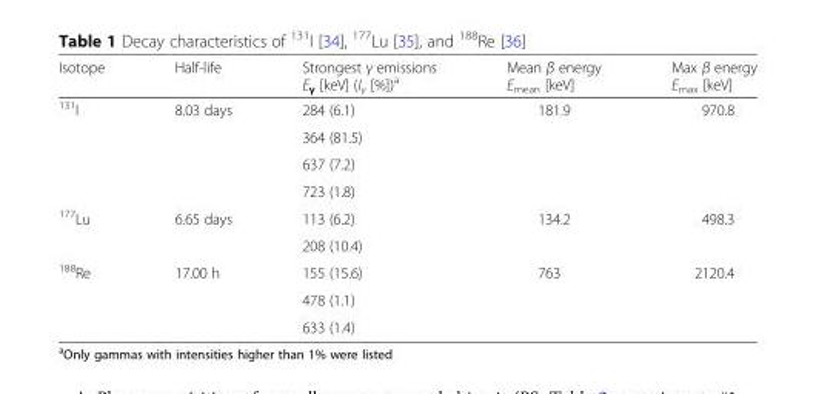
<table><thead><tr><td>Isotope</td><td>Half-life</td><td>Strongest γ emissions E<sub>γ</sub> [keV] (I<sub>γ</sub> [%])<sup>a</sup></td><td>Mean β energy E<sub>mean</sub> [keV]</td><td>Max β energy E<sub>max</sub> [keV]</td></tr></thead><tbody><tr><td rowspan="4"><sup>131</sup>I</td><td rowspan="4">8.03 days</td><td>284 (6.1)</td><td rowspan="4">181.9</td><td rowspan="4">970.8</td></tr><tr><td>364 (81.5)</td></tr><tr><td>637 (7.2)</td></tr><tr><td>723 (1.8)</td></tr><tr><td rowspan="2"><sup>177</sup>Lu</td><td rowspan="2">6.65 days</td><td>113 (6.2)</td><td rowspan="2">134.2</td><td rowspan="2">498.3</td></tr><tr><td>208 (10.4)</td></tr><tr><td rowspan="3"><sup>188</sup>Re</td><td rowspan="3">17.00 h</td><td>155 (15.6)</td><td rowspan="3">763</td><td rowspan="3">2120.4</td></tr><tr><td>478 (1.1)</td></tr><tr><td>633 (1.4)</td></tr></tbody></table>